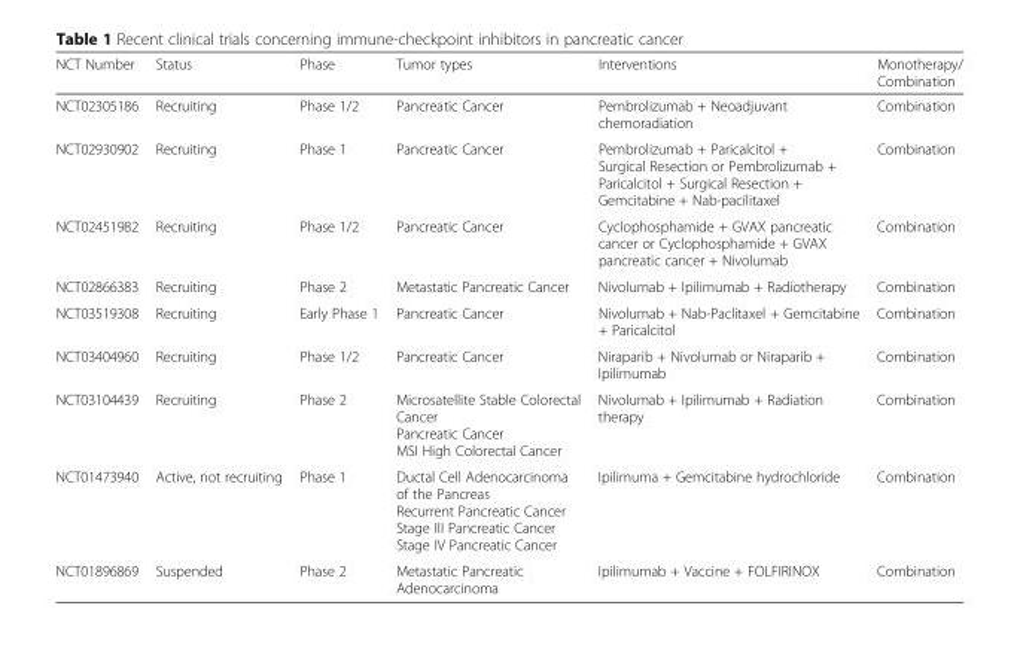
<table><thead><tr><td>NCT Number</td><td>Status</td><td>Phase</td><td>Tumor types</td><td>Interventions</td><td>Monotherapy/ Combination</td></tr></thead><tbody><tr><td>NCT02305186</td><td>Recruiting</td><td>Phase 1/2</td><td>Pancreatic Cancer</td><td>Pembrolizumab + Neoadjuvant chemoradiation</td><td>Combination</td></tr><tr><td>NCT02930902</td><td>Recruiting</td><td>Phase 1</td><td>Pancreatic Cancer</td><td>Pembrolizumab + Paricalcitol + Surgical Resection or Pembrolizumab + Paricalcitol + Surgical Resection + Gemcitabine + Nab-pacilitaxel</td><td>Combination</td></tr><tr><td>NCT02451982</td><td>Recruiting</td><td>Phase 1/2</td><td>Pancreatic Cancer</td><td>Cyclophosphamide + GVAX pancreatic cancer or Cyclophosphamide + GVAX pancreatic cancer + Nivolumab</td><td>Combination</td></tr><tr><td>NCT02866383</td><td>Recruiting</td><td>Phase 2</td><td>Metastatic Pancreatic Cancer</td><td>Nivolumab + Ipilimumab + Radiotherapy</td><td>Combination</td></tr><tr><td>NCT03519308</td><td>Recruiting</td><td>Early Phase 1</td><td>Pancreatic Cancer</td><td>Nivolumab + Nab-Paclitaxel + Gemcitabine + Paricalcitol</td><td>Combination</td></tr><tr><td>NCT03404960</td><td>Recruiting</td><td>Phase 1/2</td><td>Pancreatic Cancer</td><td>Niraparib + Nivolumab or Niraparib + Ipilimumab</td><td>Combination</td></tr><tr><td>NCT03104439</td><td>Recruiting</td><td>Phase 2</td><td>Microsatellite Stable Colorectal Cancer Pancreatic Cancer MSI High Colorectal Cancer</td><td>Nivolumab + Ipilimumab + Radiation therapy</td><td>Combination</td></tr><tr><td>NCT01473940</td><td>Active, not recruiting</td><td>Phase 1</td><td>Ductal Cell Adenocarcinoma of the Pancreas Recurrent Pancreatic Cancer Stage III Pancreatic Cancer Stage IV Pancreatic Cancer</td><td>Ipilimuma + Gemcitabine hydrochloride</td><td>Combination</td></tr><tr><td>NCT01896869</td><td>Suspended</td><td>Phase 2</td><td>Metastatic Pancreatic Adenocarcinoma</td><td>Ipilimumab + Vaccine + FOLFIRINOX</td><td>Combination</td></tr></tbody></table>